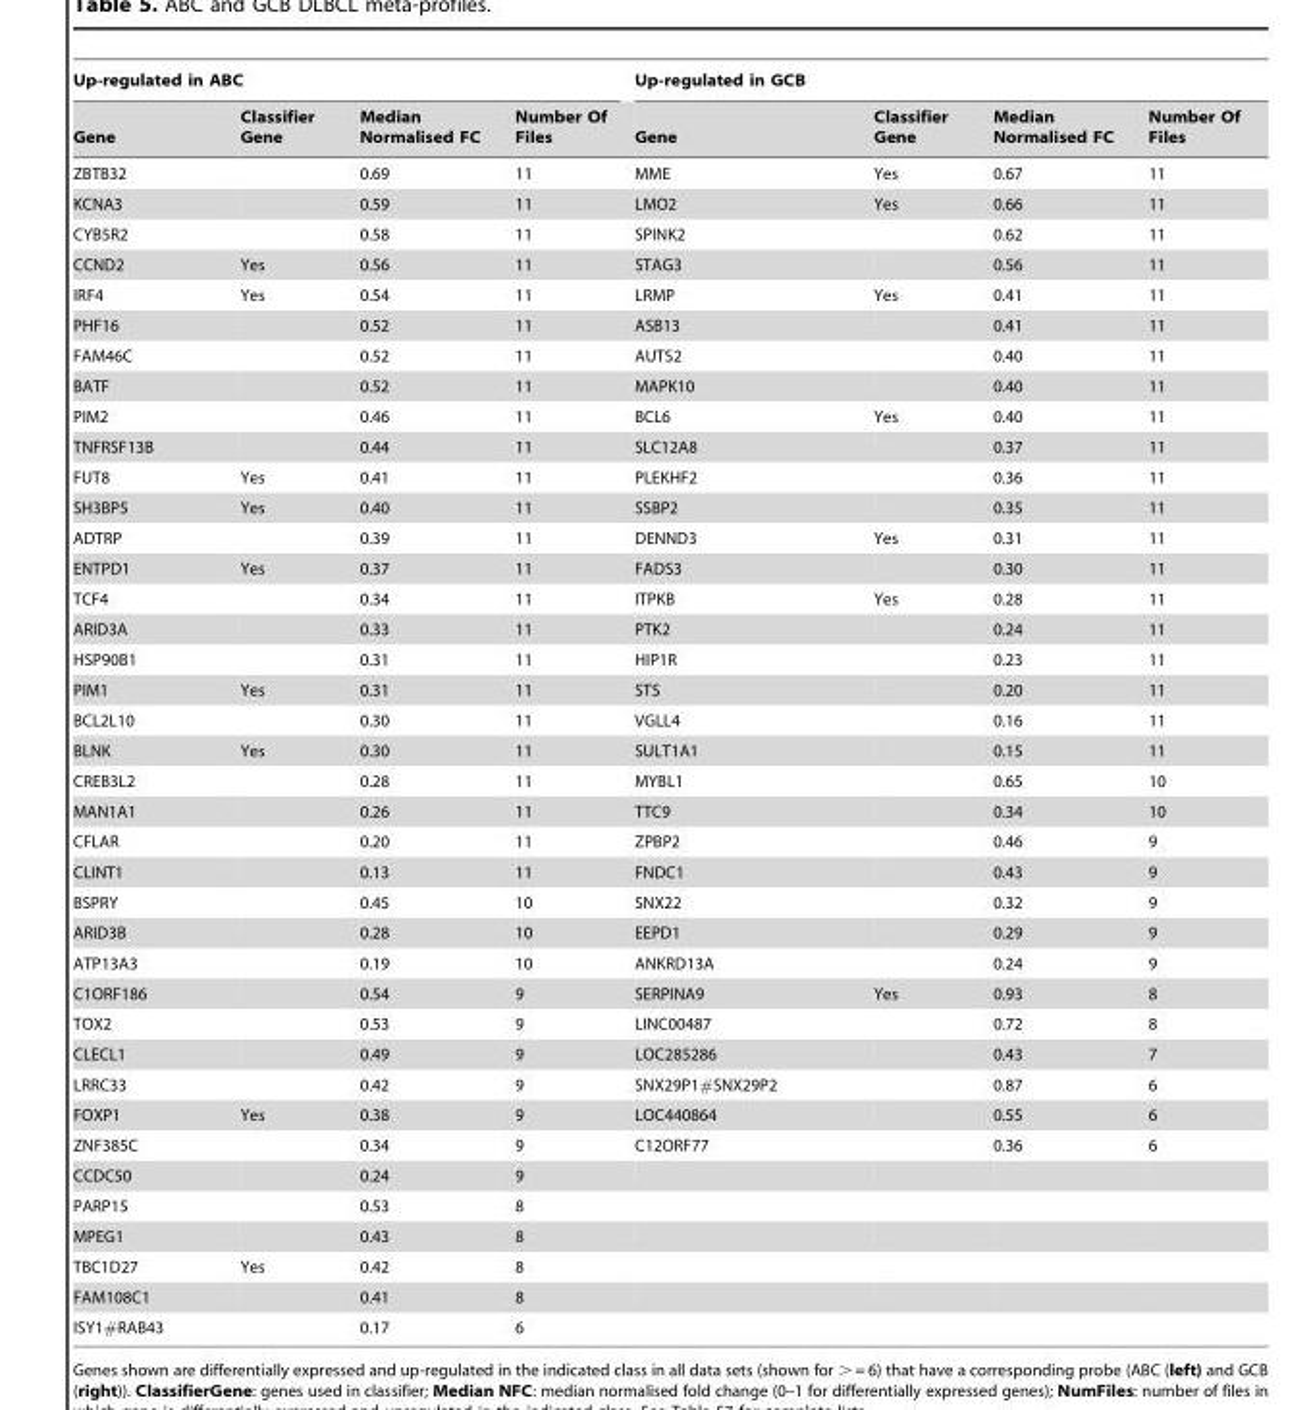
<table><thead><tr><td colspan="4">Up-regulated in ABC</td><td colspan="4">Up-regulated in GCB</td></tr><tr><td>Gene</td><td>Classifier Gene</td><td>Median Normalised FC</td><td>Number Of Files</td><td>Gene</td><td>Classifier Gene</td><td>Median Normalised FC</td><td>Number Of Files</td></tr></thead><tbody><tr><td>ZBTB32</td><td></td><td>0.69</td><td>11</td><td>MME</td><td>Yes</td><td>0.67</td><td>11</td></tr><tr><td>KCNA3</td><td></td><td>0.59</td><td>11</td><td>LMO2</td><td>Yes</td><td>0.66</td><td>11</td></tr><tr><td>CYB5R2</td><td></td><td>0.58</td><td>11</td><td>SPINK2</td><td></td><td>0.62</td><td>11</td></tr><tr><td>CCND2</td><td>Yes</td><td>0.56</td><td>11</td><td>STAG3</td><td></td><td>0.56</td><td>11</td></tr><tr><td>IRF4</td><td>Yes</td><td>0.54</td><td>11</td><td>LRMP</td><td>Yes</td><td>0.41</td><td>11</td></tr><tr><td>PHF16</td><td></td><td>0.52</td><td>11</td><td>ASB13</td><td></td><td>0.41</td><td>11</td></tr><tr><td>FAM46C</td><td></td><td>0.52</td><td>11</td><td>AUTS2</td><td></td><td>0.40</td><td>11</td></tr><tr><td>BATF</td><td></td><td>0.52</td><td>11</td><td>MAPK10</td><td></td><td>0.40</td><td>11</td></tr><tr><td>PIM2</td><td></td><td>0.46</td><td>11</td><td>BCL6</td><td>Yes</td><td>0.40</td><td>11</td></tr><tr><td>TNFRSF13B</td><td></td><td>0.44</td><td>11</td><td>SLC12A8</td><td></td><td>0.37</td><td>11</td></tr><tr><td>FUT8</td><td>Yes</td><td>0.41</td><td>11</td><td>PLEKHF2</td><td></td><td>0.36</td><td>11</td></tr><tr><td>SH3BP5</td><td>Yes</td><td>0.40</td><td>11</td><td>SSBP2</td><td></td><td>0.35</td><td>11</td></tr><tr><td>ADTRP</td><td></td><td>0.39</td><td>11</td><td>DENND3</td><td>Yes</td><td>0.31</td><td>11</td></tr><tr><td>ENTPD1</td><td>Yes</td><td>0.37</td><td>11</td><td>FADS3</td><td></td><td>0.30</td><td>11</td></tr><tr><td>TCF4</td><td></td><td>0.34</td><td>11</td><td>ITPKB</td><td>Yes</td><td>0.28</td><td>11</td></tr><tr><td>ARID3A</td><td></td><td>0.33</td><td>11</td><td>PTK2</td><td></td><td>0.24</td><td>11</td></tr><tr><td>HSP90B1</td><td></td><td>0.31</td><td>11</td><td>HIP1R</td><td></td><td>0.23</td><td>11</td></tr><tr><td>PIM1</td><td>Yes</td><td>0.31</td><td>11</td><td>STS</td><td></td><td>0.20</td><td>11</td></tr><tr><td>BCL2L10</td><td></td><td>0.30</td><td>11</td><td>VGLL4</td><td></td><td>0.16</td><td>11</td></tr><tr><td>BLNK</td><td>Yes</td><td>0.30</td><td>11</td><td>SULT1A1</td><td></td><td>0.15</td><td>11</td></tr><tr><td>CREB3L2</td><td></td><td>0.28</td><td>11</td><td>MYBL1</td><td></td><td>0.65</td><td>10</td></tr><tr><td>MAN1A1</td><td></td><td>0.26</td><td>11</td><td>TTC9</td><td></td><td>0.34</td><td>10</td></tr><tr><td>CFLAR</td><td></td><td>0.20</td><td>11</td><td>ZPBP2</td><td></td><td>0.46</td><td>9</td></tr><tr><td>CLINT1</td><td></td><td>0.13</td><td>11</td><td>FNDC1</td><td></td><td>0.43</td><td>9</td></tr><tr><td>BSPRY</td><td></td><td>0.45</td><td>10</td><td>SNX22</td><td></td><td>0.32</td><td>9</td></tr><tr><td>ARID3B</td><td></td><td>0.28</td><td>10</td><td>EEPD1</td><td></td><td>0.29</td><td>9</td></tr><tr><td>ATP13A3</td><td></td><td>0.19</td><td>10</td><td>ANKRD13A</td><td></td><td>0.24</td><td>9</td></tr><tr><td>C1ORF186</td><td></td><td>0.54</td><td>9</td><td>SERPINA9</td><td>Yes</td><td>0.93</td><td>8</td></tr><tr><td>TOX2</td><td></td><td>0.53</td><td>9</td><td>LINC00487</td><td></td><td>0.72</td><td>8</td></tr><tr><td>CLECL1</td><td></td><td>0.49</td><td>9</td><td>LOC285286</td><td></td><td>0.43</td><td>7</td></tr><tr><td>LRRC33</td><td></td><td>0.42</td><td>9</td><td>SNX29P1#SNX29P2</td><td></td><td>0.87</td><td>6</td></tr><tr><td>FOXP1</td><td>Yes</td><td>0.38</td><td>9</td><td>LOC440864</td><td></td><td>0.55</td><td>6</td></tr><tr><td>ZNF385C</td><td></td><td>0.34</td><td>9</td><td>C12ORF77</td><td></td><td>0.36</td><td>6</td></tr><tr><td>CCDC50</td><td></td><td>0.24</td><td>9</td><td></td><td></td><td></td><td></td></tr><tr><td>PARP15</td><td></td><td>0.53</td><td>8</td><td></td><td></td><td></td><td></td></tr><tr><td>MPEG1</td><td></td><td>0.43</td><td>8</td><td></td><td></td><td></td><td></td></tr><tr><td>TBC1D27</td><td>Yes</td><td>0.42</td><td>8</td><td></td><td></td><td></td><td></td></tr><tr><td>FAM108C1</td><td></td><td>0.41</td><td>8</td><td></td><td></td><td></td><td></td></tr><tr><td>ISY1#RAB43</td><td></td><td>0.17</td><td>6</td><td></td><td></td><td></td><td></td></tr></tbody></table>